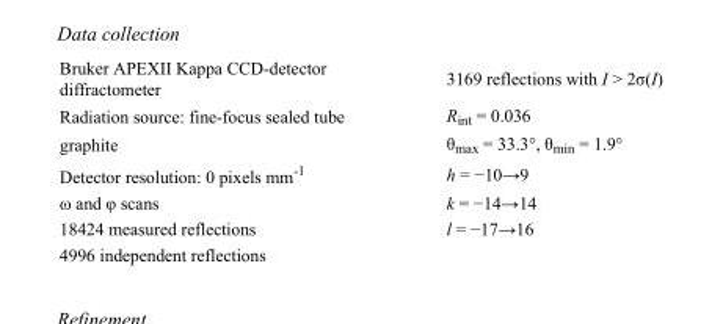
<table><tbody><tr><td>Bruker APEXII Kappa CCD-detector diffractometer</td><td>3169 reflections with I &gt; 2σ(I)</td></tr><tr><td>Radiation source: fine-focus sealed tube</td><td>R<sub>int</sub> = 0.036</td></tr><tr><td>graphite</td><td>θ<sub>max</sub> = 33.3°, θ<sub>min</sub> = 1.9°</td></tr><tr><td>Detector resolution: 0 pixels mm<sup>-1</sup></td><td>h = −10→9</td></tr><tr><td>ω and φ scans</td><td>k = −14→14</td></tr><tr><td>18424 measured reflections</td><td>l = −17→16</td></tr><tr><td>4996 independent reflections</td><td></td></tr></tbody></table>